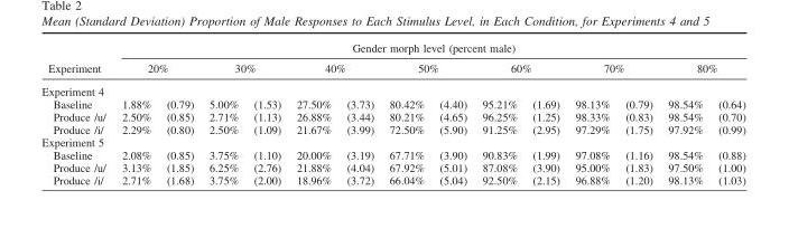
<table><thead><tr><td rowspan="3">Experiment Experiment 4</td><td colspan="14">Gender morph level (percent male)</td></tr><tr><td colspan="2">20%</td><td colspan="2">30%</td><td colspan="2">40%</td><td colspan="2">50%</td><td colspan="2">60%</td><td colspan="2">70%</td><td colspan="2">80%</td></tr><tr><td></td><td></td><td></td><td></td><td></td><td></td><td></td><td></td><td></td><td></td><td></td><td></td><td></td><td></td></tr></thead><tbody><tr><td>Baseline</td><td>1.88%</td><td>(0.79)</td><td>5.00%</td><td>(1.53)</td><td>27.50%</td><td>(3.73)</td><td>80.42%</td><td>(4.40)</td><td>95.21%</td><td>(1.69)</td><td>98.13%</td><td>(0.79)</td><td>98.54%</td><td>(0.64)</td></tr><tr><td>Produce /u/</td><td>2.50%</td><td>(0.85)</td><td>2.71%</td><td>(1.13)</td><td>26.88%</td><td>(3.44)</td><td>80.21%</td><td>(4.65)</td><td>96.25%</td><td>(1.25)</td><td>98.33%</td><td>(0.83)</td><td>98.54%</td><td>(0.70)</td></tr><tr><td>Produce /i/</td><td>2.29%</td><td>(0.80)</td><td>2.50%</td><td>(1.09)</td><td>21.67%</td><td>(3.99)</td><td>72.50%</td><td>(5.90)</td><td>91.25%</td><td>(2.95)</td><td>97.29%</td><td>(1.75)</td><td>97.92%</td><td>(0.99)</td></tr><tr><td colspan="15">Experiment 5</td></tr><tr><td>Baseline</td><td>2.08%</td><td>(0.85)</td><td>3.75%</td><td>(1.10)</td><td>20.00%</td><td>(3.19)</td><td>67.71%</td><td>(3.90)</td><td>90.83%</td><td>(1.99)</td><td>97.08%</td><td>(1.16)</td><td>98.54%</td><td>(0.88)</td></tr><tr><td>Produce /u/</td><td>3.13%</td><td>(1.85)</td><td>6.25%</td><td>(2.76)</td><td>21.88%</td><td>(4.04)</td><td>67.92%</td><td>(5.01)</td><td>87.08%</td><td>(3.90)</td><td>95.00%</td><td>(1.83)</td><td>97.50%</td><td>(1.00)</td></tr><tr><td>Produce /i/</td><td>2.71%</td><td>(1.68)</td><td>3.75%</td><td>(2.00)</td><td>18.96%</td><td>(3.72)</td><td>66.04%</td><td>(5.04)</td><td>92.50%</td><td>(2.15)</td><td>96.88%</td><td>(1.20)</td><td>98.13%</td><td>(1.03)</td></tr></tbody></table>